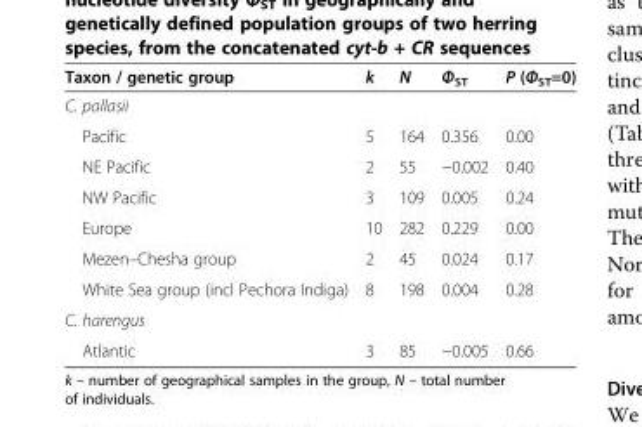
<table><thead><tr><td>Taxon / genetic group</td><td>k</td><td>N</td><td>Φ<sub>ST</sub></td><td>P (Φ<sub>ST</sub>=0)</td></tr></thead><tbody><tr><td colspan="5">C. pallasii</td></tr><tr><td>Pacific</td><td>5</td><td>164</td><td>0.356</td><td>0.00</td></tr><tr><td>NE Pacific</td><td>2</td><td>55</td><td>−0.002</td><td>0.40</td></tr><tr><td>NW Pacific</td><td>3</td><td>109</td><td>0.005</td><td>0.24</td></tr><tr><td>Europe</td><td>10</td><td>282</td><td>0.229</td><td>0.00</td></tr><tr><td>Mezen–Chesha group</td><td>2</td><td>45</td><td>0.024</td><td>0.17</td></tr><tr><td>White Sea group (incl Pechora Indiga)</td><td>8</td><td>198</td><td>0.004</td><td>0.28</td></tr><tr><td colspan="5">C. harengus</td></tr><tr><td>Atlantic</td><td>3</td><td>85</td><td>−0.005</td><td>0.66</td></tr></tbody></table>